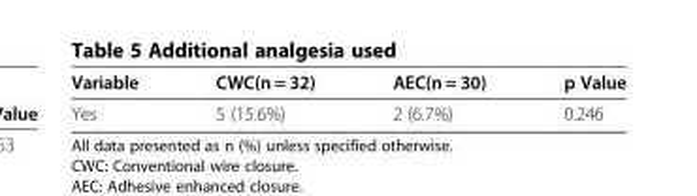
<table><thead><tr><td>Variable</td><td>CWC(n = 32)</td><td>AEC(n = 30)</td><td>p Value</td></tr></thead><tbody><tr><td>Yes</td><td>5 (15.6%)</td><td>2 (6.7%)</td><td>0.246</td></tr></tbody></table>